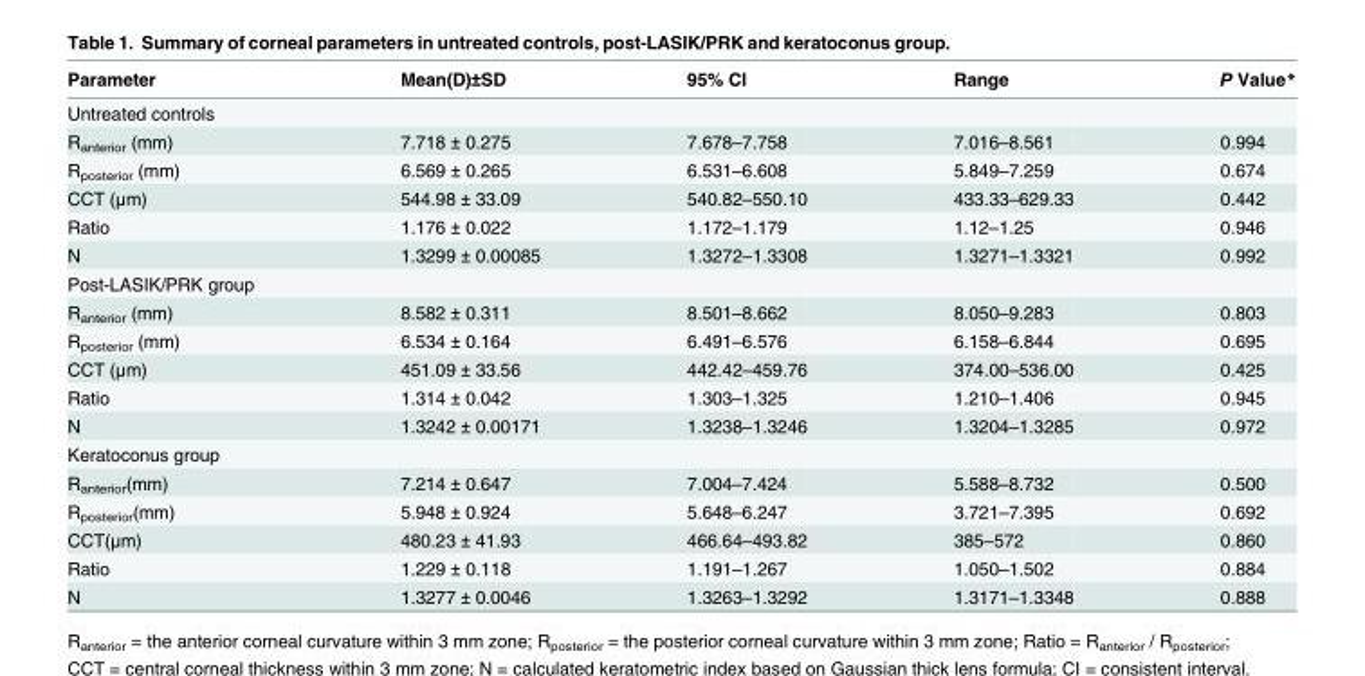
<table><thead><tr><td>Parameter</td><td>Mean(D)±SD</td><td>95% CI</td><td>Range</td><td>P Value*</td></tr></thead><tbody><tr><td colspan="5">Untreated controls</td></tr><tr><td>R<sub>anterior</sub> (mm)</td><td>7.718 ± 0.275</td><td>7.678–7.758</td><td>7.016–8.561</td><td>0.994</td></tr><tr><td>R<sub>posterior</sub> (mm)</td><td>6.569 ± 0.265</td><td>6.531–6.608</td><td>5.849–7.259</td><td>0.674</td></tr><tr><td>CCT (μm)</td><td>544.98 ± 33.09</td><td>540.82–550.10</td><td>433.33–629.33</td><td>0.442</td></tr><tr><td>Ratio</td><td>1.176 ± 0.022</td><td>1.172–1.179</td><td>1.12–1.25</td><td>0.946</td></tr><tr><td>N</td><td>1.3299 ± 0.00085</td><td>1.3272–1.3308</td><td>1.3271–1.3321</td><td>0.992</td></tr><tr><td colspan="5">Post-LASIK/PRK group</td></tr><tr><td>R<sub>anterior</sub> (mm)</td><td>8.582 ± 0.311</td><td>8.501–8.662</td><td>8.050–9.283</td><td>0.803</td></tr><tr><td>R<sub>posterior</sub> (mm)</td><td>6.534 ± 0.164</td><td>6.491–6.576</td><td>6.158–6.844</td><td>0.695</td></tr><tr><td>CCT (μm)</td><td>451.09 ± 33.56</td><td>442.42–459.76</td><td>374.00–536.00</td><td>0.425</td></tr><tr><td>Ratio</td><td>1.314 ± 0.042</td><td>1.303–1.325</td><td>1.210–1.406</td><td>0.945</td></tr><tr><td>N</td><td>1.3242 ± 0.00171</td><td>1.3238–1.3246</td><td>1.3204–1.3285</td><td>0.972</td></tr><tr><td colspan="5">Keratoconus group</td></tr><tr><td>R<sub>anterior</sub>(mm)</td><td>7.214 ± 0.647</td><td>7.004–7.424</td><td>5.588–8.732</td><td>0.500</td></tr><tr><td>R<sub>posterior</sub>(mm)</td><td>5.948 ± 0.924</td><td>5.648–6.247</td><td>3.721–7.395</td><td>0.692</td></tr><tr><td>CCT(μm)</td><td>480.23 ± 41.93</td><td>466.64–493.82</td><td>385–572</td><td>0.860</td></tr><tr><td>Ratio</td><td>1.229 ± 0.118</td><td>1.191–1.267</td><td>1.050–1.502</td><td>0.884</td></tr><tr><td>N</td><td>1.3277 ± 0.0046</td><td>1.3263–1.3292</td><td>1.3171–1.3348</td><td>0.888</td></tr></tbody></table>